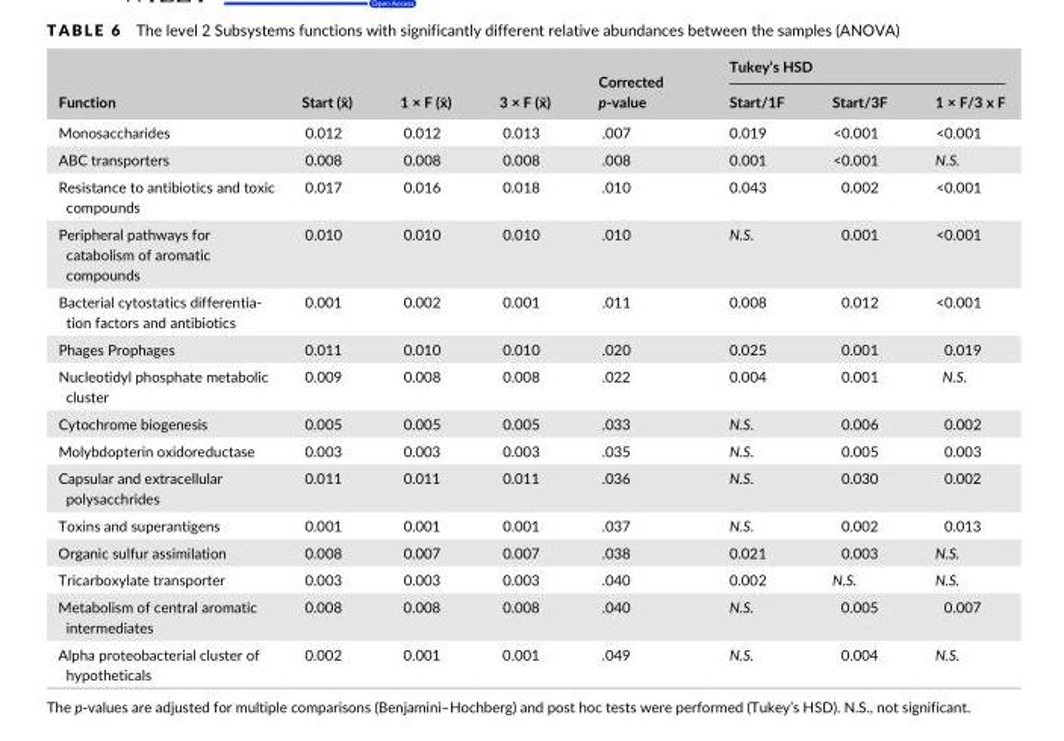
<table><thead><tr><td rowspan="2">Function</td><td rowspan="2">Start (x̄)</td><td rowspan="2">1 × F (x̄)</td><td rowspan="2">3 × F (x̄)</td><td rowspan="2">Corrected p- value</td><td colspan="3">Tukey’s HSD</td></tr><tr><td>Start/1F</td><td>Start/3F</td><td>1 × F/3 x F</td></tr></thead><tbody><tr><td>Monosaccharides</td><td>0.012</td><td>0.012</td><td>0.013</td><td>.007</td><td>0.019</td><td>&lt;0.001</td><td>&lt;0.001</td></tr><tr><td>ABC transporters</td><td>0.008</td><td>0.008</td><td>0.008</td><td>.008</td><td>0.001</td><td>&lt;0.001</td><td>N.S.</td></tr><tr><td>Resistance to antibiotics and toxic compounds</td><td>0.017</td><td>0.016</td><td>0.018</td><td>.010</td><td>0.043</td><td>0.002</td><td>&lt;0.001</td></tr><tr><td>Peripheral pathways for catabolism of aromatic compounds</td><td>0.010</td><td>0.010</td><td>0.010</td><td>.010</td><td>N.S.</td><td>0.001</td><td>&lt;0.001</td></tr><tr><td>Bacterial cytostatics differentia- tion factors and antibiotics</td><td>0.001</td><td>0.002</td><td>0.001</td><td>.011</td><td>0.008</td><td>0.012</td><td>&lt;0.001</td></tr><tr><td>Phages Prophages</td><td>0.011</td><td>0.010</td><td>0.010</td><td>.020</td><td>0.025</td><td>0.001</td><td>0.019</td></tr><tr><td>Nucleotidyl phosphate metabolic cluster</td><td>0.009</td><td>0.008</td><td>0.008</td><td>.022</td><td>0.004</td><td>0.001</td><td>N.S.</td></tr><tr><td>Cytochrome biogenesis</td><td>0.005</td><td>0.005</td><td>0.005</td><td>.033</td><td>N.S.</td><td>0.006</td><td>0.002</td></tr><tr><td>Molybdopterin oxidoreductase</td><td>0.003</td><td>0.003</td><td>0.003</td><td>.035</td><td>N.S.</td><td>0.005</td><td>0.003</td></tr><tr><td>Capsular and extracellular polysacchrides</td><td>0.011</td><td>0.011</td><td>0.011</td><td>.036</td><td>N.S.</td><td>0.030</td><td>0.002</td></tr><tr><td>Toxins and superantigens</td><td>0.001</td><td>0.001</td><td>0.001</td><td>.037</td><td>N.S.</td><td>0.002</td><td>0.013</td></tr><tr><td>Organic sulfur assimilation</td><td>0.008</td><td>0.007</td><td>0.007</td><td>.038</td><td>0.021</td><td>0.003</td><td>N.S.</td></tr><tr><td>Tricarboxylate transporter</td><td>0.003</td><td>0.003</td><td>0.003</td><td>.040</td><td>0.002</td><td>N.S.</td><td>N.S.</td></tr><tr><td>Metabolism of central aromatic intermediates</td><td>0.008</td><td>0.008</td><td>0.008</td><td>.040</td><td>N.S.</td><td>0.005</td><td>0.007</td></tr><tr><td>Alpha proteobacterial cluster of hypotheticals</td><td>0.002</td><td>0.001</td><td>0.001</td><td>.049</td><td>N.S.</td><td>0.004</td><td>N.S.</td></tr></tbody></table>